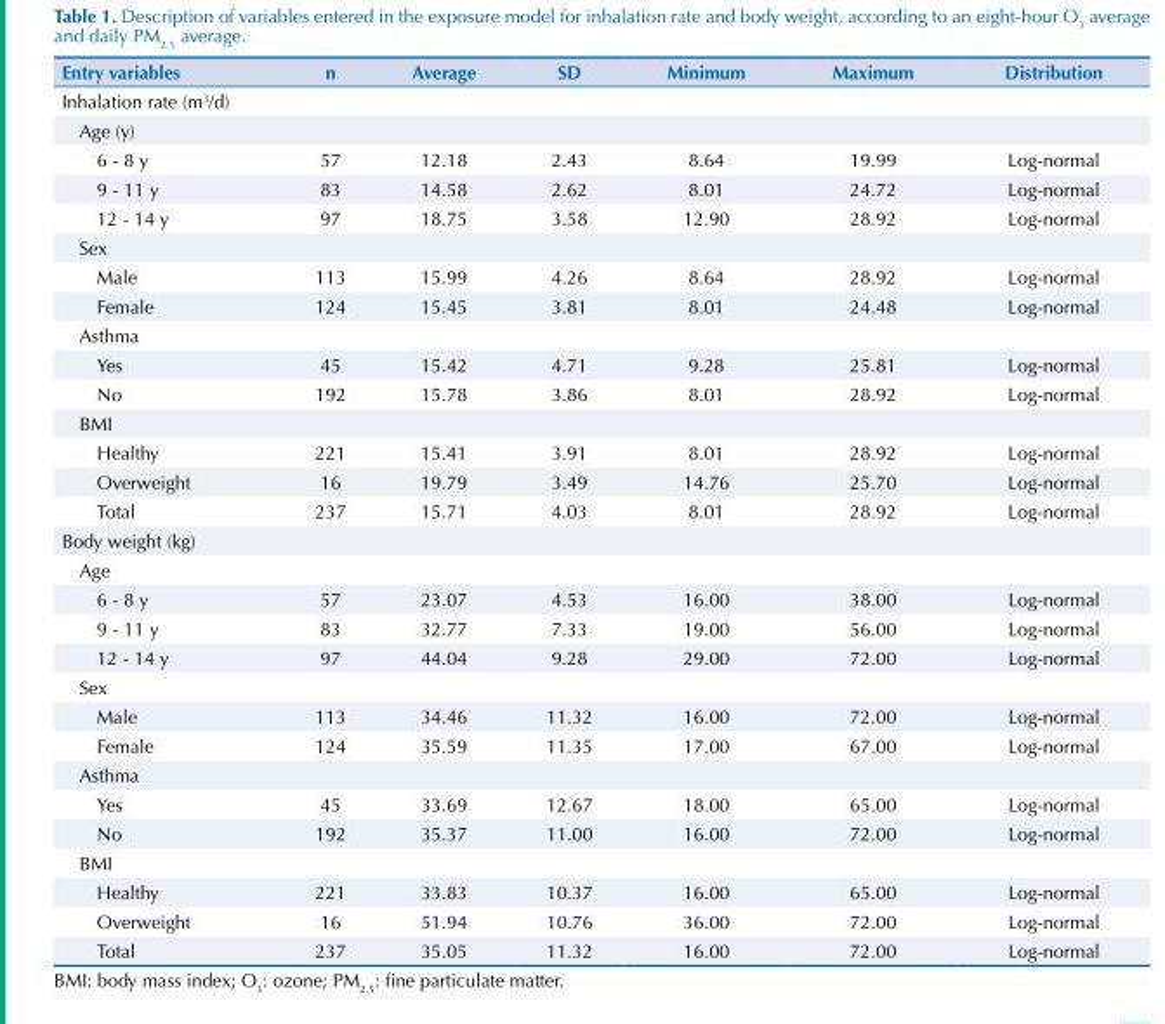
<table><thead><tr><td>Entry variables</td><td>n</td><td>Average</td><td>SD</td><td>Minimum</td><td>Maximum</td><td>Distribution</td></tr></thead><tbody><tr><td colspan="7">Inhalation rate (m<sup>3</sup>/d)</td></tr><tr><td colspan="7">Age (y)</td></tr><tr><td>6 - 8 y</td><td>57</td><td>12.18</td><td>2.43</td><td>8.64</td><td>19.99</td><td>Log-normal</td></tr><tr><td>9 - 11 y</td><td>83</td><td>14.58</td><td>2.62</td><td>8.01</td><td>24.72</td><td>Log-normal</td></tr><tr><td>12 - 14 y</td><td>97</td><td>18.75</td><td>3.58</td><td>12.90</td><td>28.92</td><td>Log-normal</td></tr><tr><td colspan="7">Sex</td></tr><tr><td>Male</td><td>113</td><td>15.99</td><td>4.26</td><td>8.64</td><td>28.92</td><td>Log-normal</td></tr><tr><td>Female</td><td>124</td><td>15.45</td><td>3.81</td><td>8.01</td><td>24.48</td><td>Log-normal</td></tr><tr><td colspan="7">Asthma</td></tr><tr><td>Yes</td><td>45</td><td>15.42</td><td>4.71</td><td>9.28</td><td>25.81</td><td>Log-normal</td></tr><tr><td>No</td><td>192</td><td>15.78</td><td>3.86</td><td>8.01</td><td>28.92</td><td>Log-normal</td></tr><tr><td colspan="7">BMI</td></tr><tr><td>Healthy</td><td>221</td><td>15.41</td><td>3.91</td><td>8.01</td><td>28.92</td><td>Log-normal</td></tr><tr><td>Overweight</td><td>16</td><td>19.79</td><td>3.49</td><td>14.76</td><td>25.70</td><td>Log-normal</td></tr><tr><td>Total</td><td>237</td><td>15.71</td><td>4.03</td><td>8.01</td><td>28.92</td><td>Log-normal</td></tr><tr><td colspan="7">Body weight (kg)</td></tr><tr><td colspan="7">Age</td></tr><tr><td>6 - 8 y</td><td>57</td><td>23.07</td><td>4.53</td><td>16.00</td><td>38.00</td><td>Log-normal</td></tr><tr><td>9 - 11 y</td><td>83</td><td>32.77</td><td>7.33</td><td>19.00</td><td>56.00</td><td>Log-normal</td></tr><tr><td>12 - 14 y</td><td>97</td><td>44.04</td><td>9.28</td><td>29.00</td><td>72.00</td><td>Log-normal</td></tr><tr><td colspan="7">Sex</td></tr><tr><td>Male</td><td>113</td><td>34.46</td><td>11.32</td><td>16.00</td><td>72.00</td><td>Log-normal</td></tr><tr><td>Female</td><td>124</td><td>35.59</td><td>11.35</td><td>17.00</td><td>67.00</td><td>Log-normal</td></tr><tr><td colspan="7">Asthma</td></tr><tr><td>Yes</td><td>45</td><td>33.69</td><td>12.67</td><td>18.00</td><td>65.00</td><td>Log-normal</td></tr><tr><td>No</td><td>192</td><td>35.37</td><td>11.00</td><td>16.00</td><td>72.00</td><td>Log-normal</td></tr><tr><td colspan="7">BMI</td></tr><tr><td>Healthy</td><td>221</td><td>33.83</td><td>10.37</td><td>16.00</td><td>65.00</td><td>Log-normal</td></tr><tr><td>Overweight</td><td>16</td><td>51.94</td><td>10.76</td><td>36.00</td><td>72.00</td><td>Log-normal</td></tr><tr><td>Total</td><td>237</td><td>35.05</td><td>11.32</td><td>16.00</td><td>72.00</td><td>Log-normal</td></tr></tbody></table>